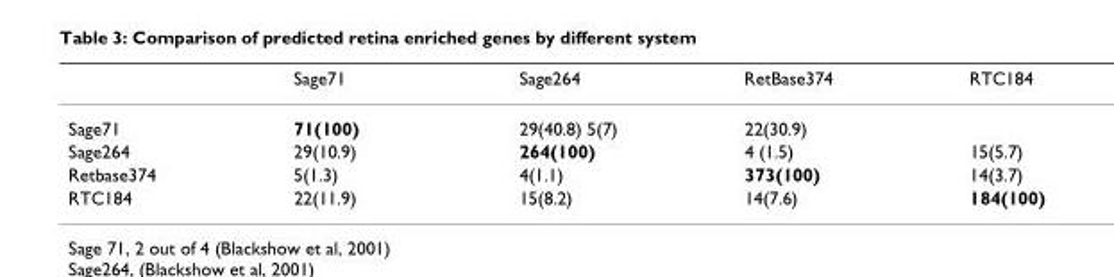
<table><thead><tr><td></td><td>Sage71</td><td>Sage264</td><td>RetBase374</td><td>RTC184</td></tr></thead><tbody><tr><td>Sage71</td><td>71(100)</td><td>29(40.8) 5(7)</td><td>22(30.9)</td><td></td></tr><tr><td>Sage264</td><td>29(10.9)</td><td>264(100)</td><td>4 (1.5)</td><td>15(5.7)</td></tr><tr><td>Retbase374</td><td>5(1.3)</td><td>4(1.1)</td><td>373(100)</td><td>14(3.7)</td></tr><tr><td>RTC184</td><td>22(11.9)</td><td>15(8.2)</td><td>14(7.6)</td><td>184(100)</td></tr></tbody></table>